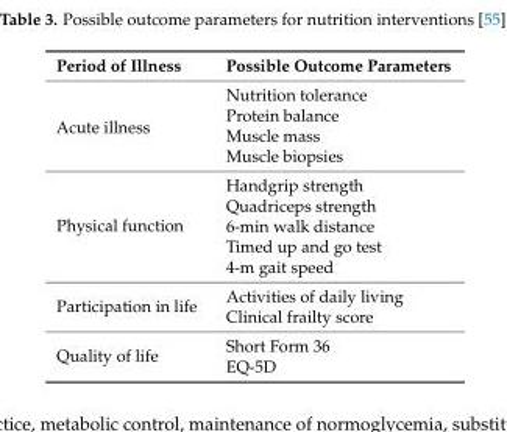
<table><thead><tr><td>Period of Illness</td><td>Possible Outcome Parameters</td></tr></thead><tbody><tr><td rowspan="4">Acute illness</td><td>Nutrition tolerance</td></tr><tr><td>Protein balance</td></tr><tr><td>Muscle mass</td></tr><tr><td>Muscle biopsies</td></tr><tr><td rowspan="5">Physical function</td><td>Handgrip strength</td></tr><tr><td>Quadriceps strength</td></tr><tr><td>6-min walk distance</td></tr><tr><td>Timed up and go test</td></tr><tr><td>4-m gait speed</td></tr><tr><td rowspan="2">Participation in life</td><td>Activities of daily living</td></tr><tr><td>Clinical frailty score</td></tr><tr><td rowspan="2">Quality of life</td><td>Short Form 36</td></tr><tr><td>EQ-5D</td></tr></tbody></table>